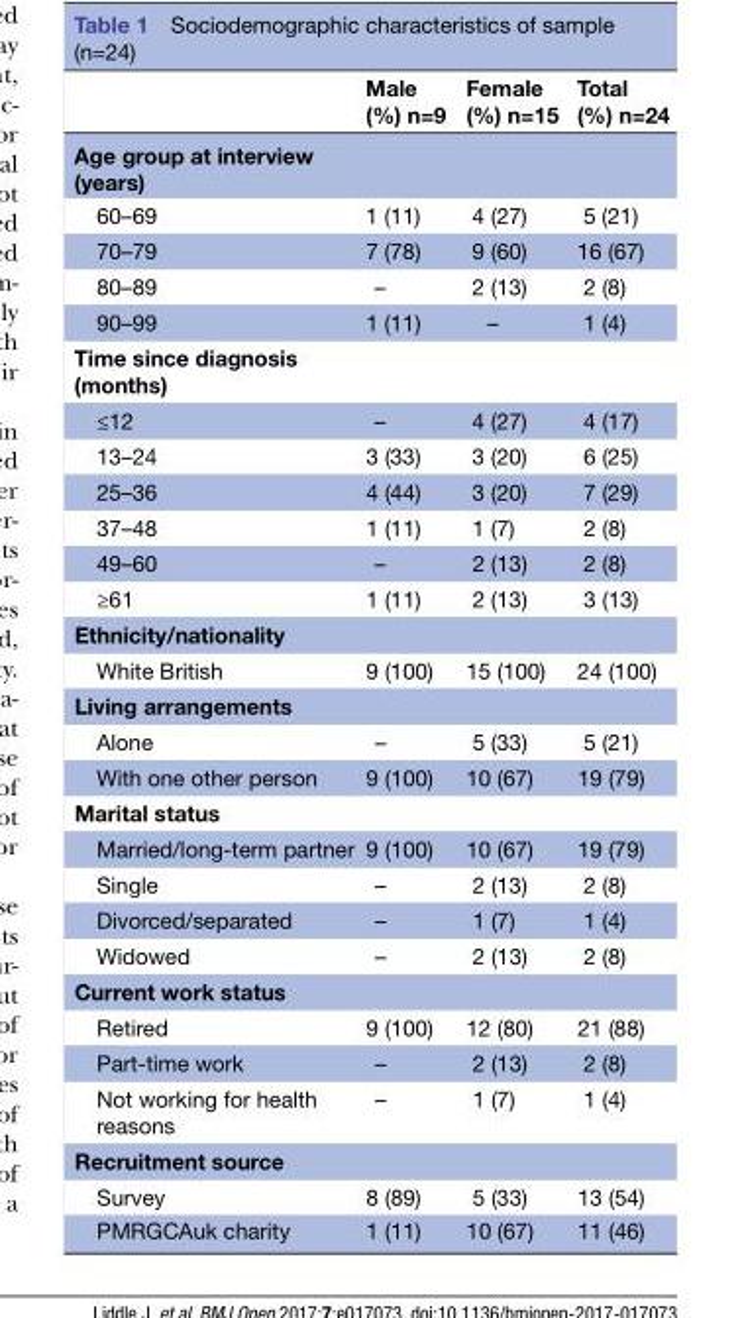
<table><thead><tr><td></td><td>Male (%) n=9</td><td>Female (%) n=15</td><td>Total (%) n=24</td></tr></thead><tbody><tr><td colspan="4">Age group at interview (years)</td></tr><tr><td>60–69</td><td>1 (11)</td><td>4 (27)</td><td>5 (21)</td></tr><tr><td>70–79</td><td>7 (78)</td><td>9 (60)</td><td>16 (67)</td></tr><tr><td>80–89</td><td>–</td><td>2 (13)</td><td>2 (8)</td></tr><tr><td>90–99</td><td>1 (11)</td><td>–</td><td>1 (4)</td></tr><tr><td colspan="4">Time since diagnosis (months)</td></tr><tr><td>≤12</td><td>–</td><td>4 (27)</td><td>4 (17)</td></tr><tr><td>13–24</td><td>3 (33)</td><td>3 (20)</td><td>6 (25)</td></tr><tr><td>25–36</td><td>4 (44)</td><td>3 (20)</td><td>7 (29)</td></tr><tr><td>37–48</td><td>1 (11)</td><td>1 (7)</td><td>2 (8)</td></tr><tr><td>49–60</td><td>–</td><td>2 (13)</td><td>2 (8)</td></tr><tr><td>≥61</td><td>1 (11)</td><td>2 (13)</td><td>3 (13)</td></tr><tr><td colspan="4">Ethnicity/nationality</td></tr><tr><td>White British</td><td>9 (100)</td><td>15 (100)</td><td>24 (100)</td></tr><tr><td colspan="4">Living arrangements</td></tr><tr><td>Alone</td><td>–</td><td>5 (33)</td><td>5 (21)</td></tr><tr><td>With one other person</td><td>9 (100)</td><td>10 (67)</td><td>19 (79)</td></tr><tr><td colspan="4">Marital status</td></tr><tr><td>Married/long-term partner</td><td>9 (100)</td><td>10 (67)</td><td>19 (79)</td></tr><tr><td>Single</td><td>–</td><td>2 (13)</td><td>2 (8)</td></tr><tr><td>Divorced/separated</td><td>–</td><td>1 (7)</td><td>1 (4)</td></tr><tr><td>Widowed</td><td>–</td><td>2 (13)</td><td>2 (8)</td></tr><tr><td colspan="4">Current work status</td></tr><tr><td>Retired</td><td>9 (100)</td><td>12 (80)</td><td>21 (88)</td></tr><tr><td>Part-time work</td><td>–</td><td>2 (13)</td><td>2 (8)</td></tr><tr><td>Not working for health reasons</td><td>–</td><td>1 (7)</td><td>1 (4)</td></tr><tr><td colspan="4">Recruitment source</td></tr><tr><td>Survey</td><td>8 (89)</td><td>5 (33)</td><td>13 (54)</td></tr><tr><td>PMRGCAuk charity</td><td>1 (11)</td><td>10 (67)</td><td>11 (46)</td></tr></tbody></table>